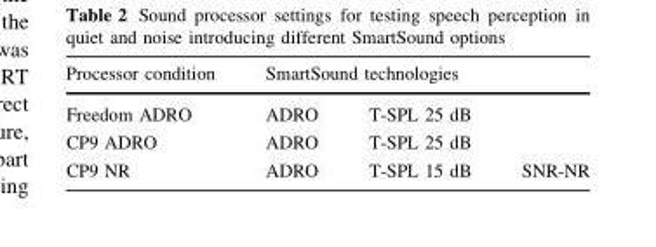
<table><thead><tr><td rowspan="2">Processor condition Freedom ADRO</td><td colspan="3">SmartSound technologies</td></tr><tr><td>ADRO</td><td>T-SPL 25 dB</td><td></td></tr></thead><tbody><tr><td>CP9 ADRO</td><td>ADRO</td><td>T-SPL 25 dB</td><td></td></tr><tr><td>CP9 NR</td><td>ADRO</td><td>T-SPL 15 dB</td><td>SNR-NR</td></tr></tbody></table>